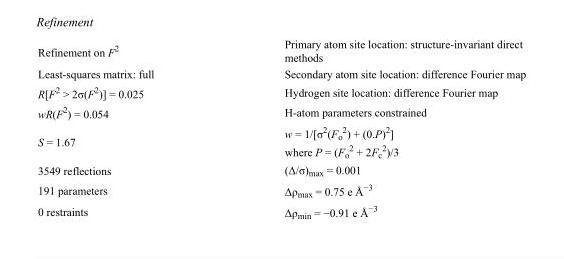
<table><tbody><tr><td>Refinement on F<sup>2</sup></td><td>Primary atom site location: structure-invariant direct methods</td></tr><tr><td>Least-squares matrix: full</td><td>Secondary atom site location: difference Fourier map</td></tr><tr><td>R[F<sup>2</sup> &gt; 2σ(F<sup>2</sup>)] = 0.025</td><td>Hydrogen site location: difference Fourier map</td></tr><tr><td>wR(F<sup>2</sup>) = 0.054</td><td>H-atom parameters constrained</td></tr><tr><td>S = 1.67</td><td>w = 1/[σ<sup>2</sup>(F<sub>o</sub> <sup>2</sup>) + (0.P)<sup>2</sup>] where P = (F<sub>o</sub> <sup>2</sup> + 2F<sub>c</sub> <sup>2</sup>)/3</td></tr><tr><td>3549 reflections</td><td>(Δ/σ)<sub>max</sub> = 0.001</td></tr><tr><td>191 parameters</td><td>Δρ<sub>max</sub> = 0.75 e Å<sup>−3</sup></td></tr><tr><td>0 restraints</td><td>Δρ<sub>min</sub> = −0.91 e Å<sup>−3</sup></td></tr></tbody></table>